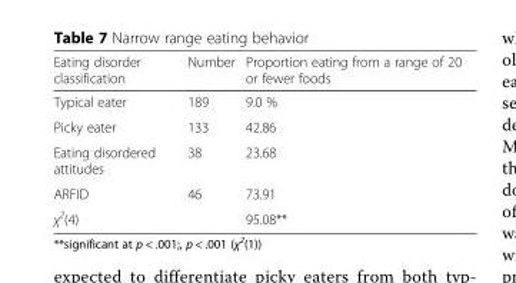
<table><thead><tr><td>Eating disorder classification</td><td>Number</td><td>Proportion eating from a range of 20 or fewer foods</td></tr></thead><tbody><tr><td>Typical eater</td><td>189</td><td>9.0 %</td></tr><tr><td>Picky eater</td><td>133</td><td>42.86</td></tr><tr><td>Eating disordered attitudes</td><td>38</td><td>23.68</td></tr><tr><td>ARFID</td><td>46</td><td>73.91</td></tr><tr><td>χ<sup>2</sup>(4)</td><td></td><td>95.08**</td></tr></tbody></table>